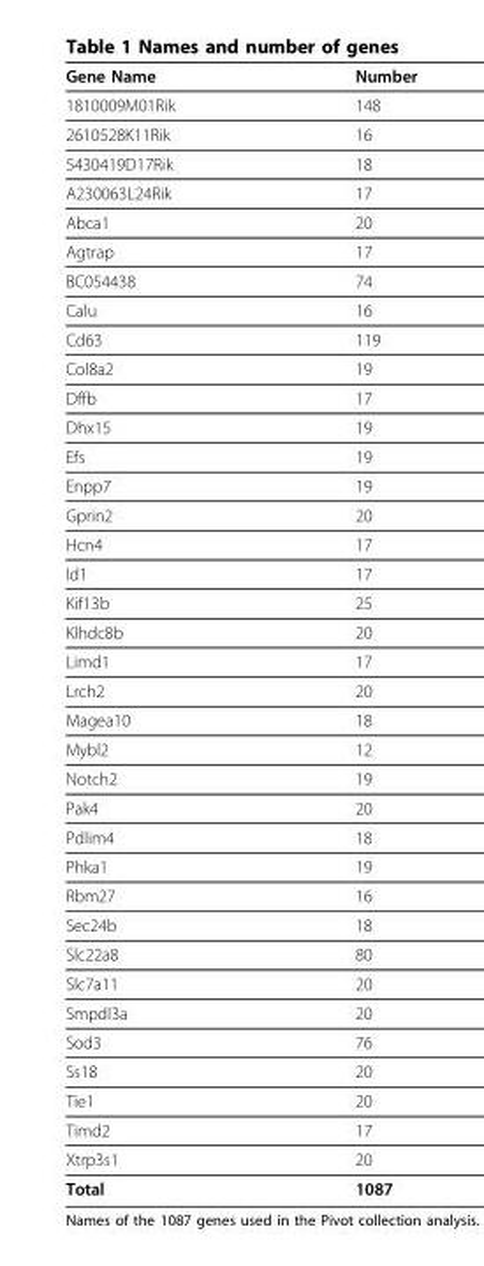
<table><thead><tr><td>Gene Name</td><td>Number</td></tr></thead><tbody><tr><td>1810009M01Rik</td><td>148</td></tr><tr><td>2610528K11Rik</td><td>16</td></tr><tr><td>5430419D17Rik</td><td>18</td></tr><tr><td>A230063L24Rik</td><td>17</td></tr><tr><td>Abca1</td><td>20</td></tr><tr><td>Agtrap</td><td>17</td></tr><tr><td>BC054438</td><td>74</td></tr><tr><td>Calu</td><td>16</td></tr><tr><td>Cd63</td><td>119</td></tr><tr><td>Col8a2</td><td>19</td></tr><tr><td>Dffb</td><td>17</td></tr><tr><td>Dhx15</td><td>19</td></tr><tr><td>Efs</td><td>19</td></tr><tr><td>Enpp7</td><td>19</td></tr><tr><td>Gprin2</td><td>20</td></tr><tr><td>Hcn4</td><td>17</td></tr><tr><td>Id1</td><td>17</td></tr><tr><td>Kif13b</td><td>25</td></tr><tr><td>Klhdc8b</td><td>20</td></tr><tr><td>Limd1</td><td>17</td></tr><tr><td>Lrch2</td><td>20</td></tr><tr><td>Magea10</td><td>18</td></tr><tr><td>Mybl2</td><td>12</td></tr><tr><td>Notch2</td><td>19</td></tr><tr><td>Pak4</td><td>20</td></tr><tr><td>Pdlim4</td><td>18</td></tr><tr><td>Phka1</td><td>19</td></tr><tr><td>Rbm27</td><td>16</td></tr><tr><td>Sec24b</td><td>18</td></tr><tr><td>Slc22a8</td><td>80</td></tr><tr><td>Slc7a11</td><td>20</td></tr><tr><td>Smpdl3a</td><td>20</td></tr><tr><td>Sod3</td><td>76</td></tr><tr><td>Ss18</td><td>20</td></tr><tr><td>Tie1</td><td>20</td></tr><tr><td>Timd2</td><td>17</td></tr><tr><td>Xtrp3s1</td><td>20</td></tr><tr><td>Total</td><td>1087</td></tr></tbody></table>